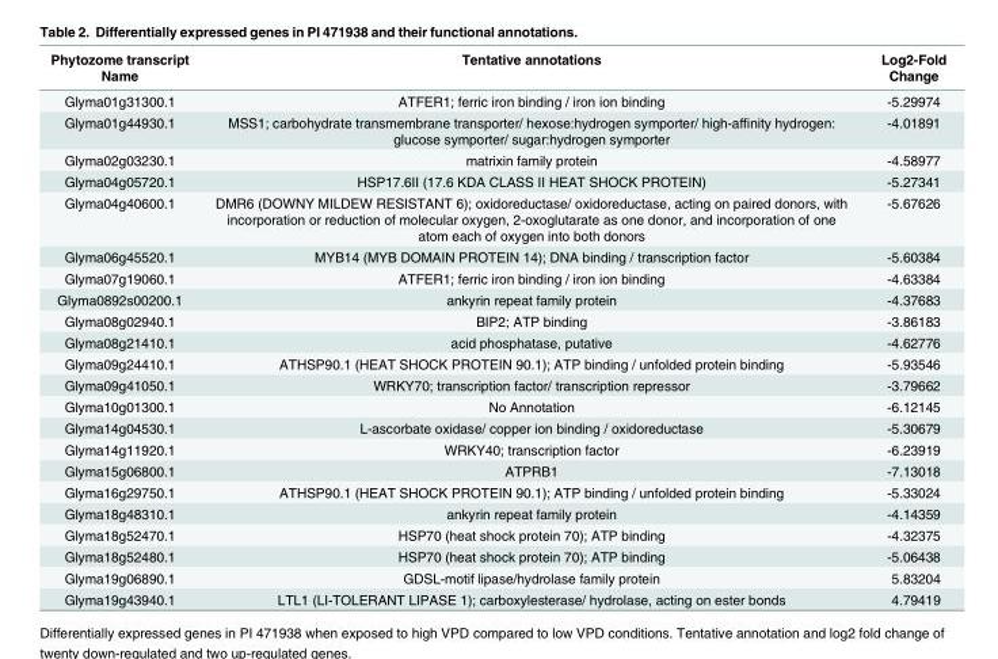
<table><thead><tr><td>Phytozome transcript Name</td><td>Tentative annotations</td><td>Log2-Fold Change</td></tr></thead><tbody><tr><td>Glyma01g31300.1</td><td>ATFER1; ferric iron binding / iron ion binding</td><td>-5.29974</td></tr><tr><td>Glyma01g44930.1</td><td>MSS1; carbohydrate transmembrane transporter/ hexose:hydrogen symporter/ high-affinity hydrogen: glucose symporter/ sugar:hydrogen symporter</td><td>-4.01891</td></tr><tr><td>Glyma02g03230.1</td><td>matrixin family protein</td><td>-4.58977</td></tr><tr><td>Glyma04g05720.1</td><td>HSP17.6II (17.6 KDA CLASS II HEAT SHOCK PROTEIN)</td><td>-5.27341</td></tr><tr><td>Glyma04g40600.1</td><td>DMR6 (DOWNY MILDEW RESISTANT 6); oxidoreductase/ oxidoreductase, acting on paired donors, with incorporation or reduction of molecular oxygen, 2-oxoglutarate as one donor, and incorporation of one atom each of oxygen into both donors</td><td>-5.67626</td></tr><tr><td>Glyma06g45520.1</td><td>MYB14 (MYB DOMAIN PROTEIN 14); DNA binding / transcription factor</td><td>-5.60384</td></tr><tr><td>Glyma07g19060.1</td><td>ATFER1; ferric iron binding / iron ion binding</td><td>-4.63384</td></tr><tr><td>Glyma0892s00200.1</td><td>ankyrin repeat family protein</td><td>-4.37683</td></tr><tr><td>Glyma08g02940.1</td><td>BIP2; ATP binding</td><td>-3.86183</td></tr><tr><td>Glyma08g21410.1</td><td>acid phosphatase, putative</td><td>-4.62776</td></tr><tr><td>Glyma09g24410.1</td><td>ATHSP90.1 (HEAT SHOCK PROTEIN 90.1); ATP binding / unfolded protein binding</td><td>-5.93546</td></tr><tr><td>Glyma09g41050.1</td><td>WRKY70; transcription factor/ transcription repressor</td><td>-3.79662</td></tr><tr><td>Glyma10g01300.1</td><td>No Annotation</td><td>-6.12145</td></tr><tr><td>Glyma14g04530.1</td><td>L-ascorbate oxidase/ copper ion binding / oxidoreductase</td><td>-5.30679</td></tr><tr><td>Glyma14g11920.1</td><td>WRKY40; transcription factor</td><td>-6.23919</td></tr><tr><td>Glyma15g06800.1</td><td>ATPRB1</td><td>-7.13018</td></tr><tr><td>Glyma16g29750.1</td><td>ATHSP90.1 (HEAT SHOCK PROTEIN 90.1); ATP binding / unfolded protein binding</td><td>-5.33024</td></tr><tr><td>Glyma18g48310.1</td><td>ankyrin repeat family protein</td><td>-4.14359</td></tr><tr><td>Glyma18g52470.1</td><td>HSP70 (heat shock protein 70); ATP binding</td><td>-4.32375</td></tr><tr><td>Glyma18g52480.1</td><td>HSP70 (heat shock protein 70); ATP binding</td><td>-5.06438</td></tr><tr><td>Glyma19g06890.1</td><td>GDSL-motif lipase/hydrolase family protein</td><td>5.83204</td></tr><tr><td>Glyma19g43940.1</td><td>LTL1 (LI-TOLERANT LIPASE 1); carboxylesterase/ hydrolase, acting on ester bonds</td><td>4.79419</td></tr></tbody></table>